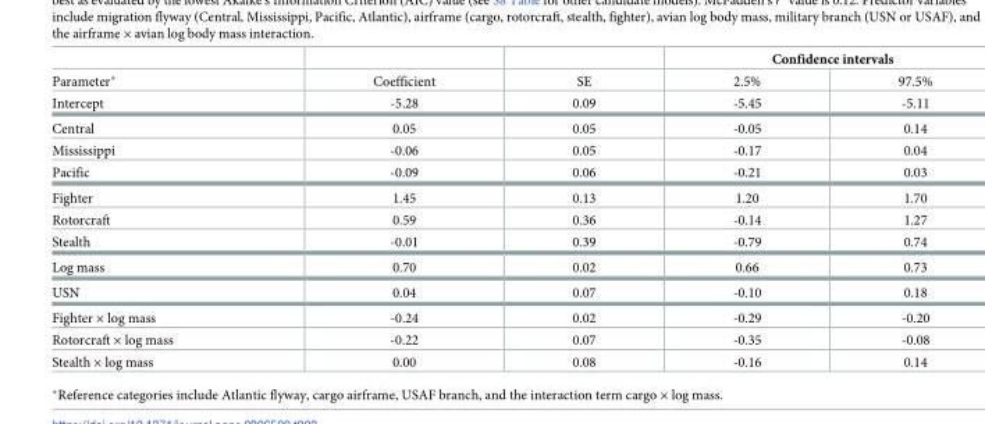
<table><thead><tr><td rowspan="2">Parameter*</td><td rowspan="2">Coefficient</td><td rowspan="2">SE</td><td colspan="2">Confidence intervals</td></tr><tr><td>2.5%</td><td>97.5%</td></tr></thead><tbody><tr><td>Intercept</td><td>-5.28</td><td>0.09</td><td>-5.45</td><td>-5.11</td></tr><tr><td>Central</td><td>0.05</td><td>0.05</td><td>-0.05</td><td>0.14</td></tr><tr><td>Mississippi</td><td>-0.06</td><td>0.05</td><td>-0.17</td><td>0.04</td></tr><tr><td>Pacific</td><td>-0.09</td><td>0.06</td><td>-0.21</td><td>0.03</td></tr><tr><td>Fighter</td><td>1.45</td><td>0.13</td><td>1.20</td><td>1.70</td></tr><tr><td>Rotorcraft</td><td>0.59</td><td>0.36</td><td>-0.14</td><td>1.27</td></tr><tr><td>Stealth</td><td>-0.01</td><td>0.39</td><td>-0.79</td><td>0.74</td></tr><tr><td>Log mass</td><td>0.70</td><td>0.02</td><td>0.66</td><td>0.73</td></tr><tr><td>USN</td><td>0.04</td><td>0.07</td><td>-0.10</td><td>0.18</td></tr><tr><td>Fighter × log mass</td><td>-0.24</td><td>0.02</td><td>-0.29</td><td>-0.20</td></tr><tr><td>Rotorcraft × log mass</td><td>-0.22</td><td>0.07</td><td>-0.35</td><td>-0.08</td></tr><tr><td>Stealth × log mass</td><td>0.00</td><td>0.08</td><td>-0.16</td><td>0.14</td></tr></tbody></table>